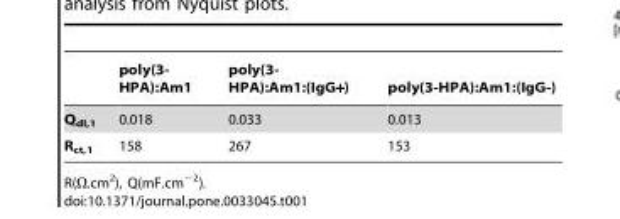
<table><thead><tr><td></td><td>poly(3- HPA):Am1</td><td>poly(3- HPA):Am1:(IgG+)</td><td>poly(3-HPA):Am1:(IgG-)</td></tr></thead><tbody><tr><td>Q<sub>dl,1</sub></td><td>0.018</td><td>0.033</td><td>0.013</td></tr><tr><td>R<sub>ct,1</sub></td><td>158</td><td>267</td><td>153</td></tr></tbody></table>